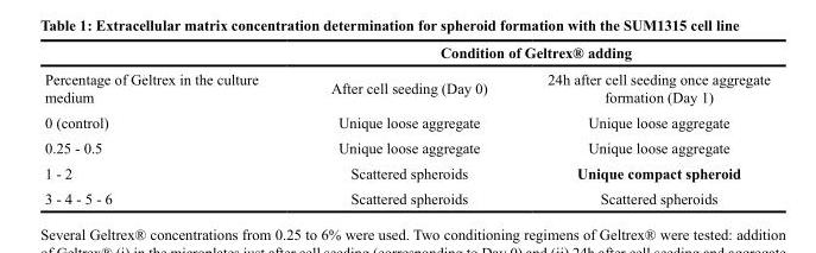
<table><thead><tr><td rowspan="2">Percentage of Geltrex in the culture medium</td><td colspan="2">Condition of Geltrex® adding</td></tr><tr><td>After cell seeding (Day 0)</td><td>24h after cell seeding once aggregate formation (Day 1)</td></tr></thead><tbody><tr><td>0 (control)</td><td>Unique loose aggregate</td><td>Unique loose aggregate</td></tr><tr><td>0.25 - 0.5</td><td>Unique loose aggregate</td><td>Unique loose aggregate</td></tr><tr><td>1 - 2</td><td>Scattered spheroids</td><td>Unique compact spheroid</td></tr><tr><td>3 - 4 - 5 - 6</td><td>Scattered spheroids</td><td>Scattered spheroids</td></tr></tbody></table>